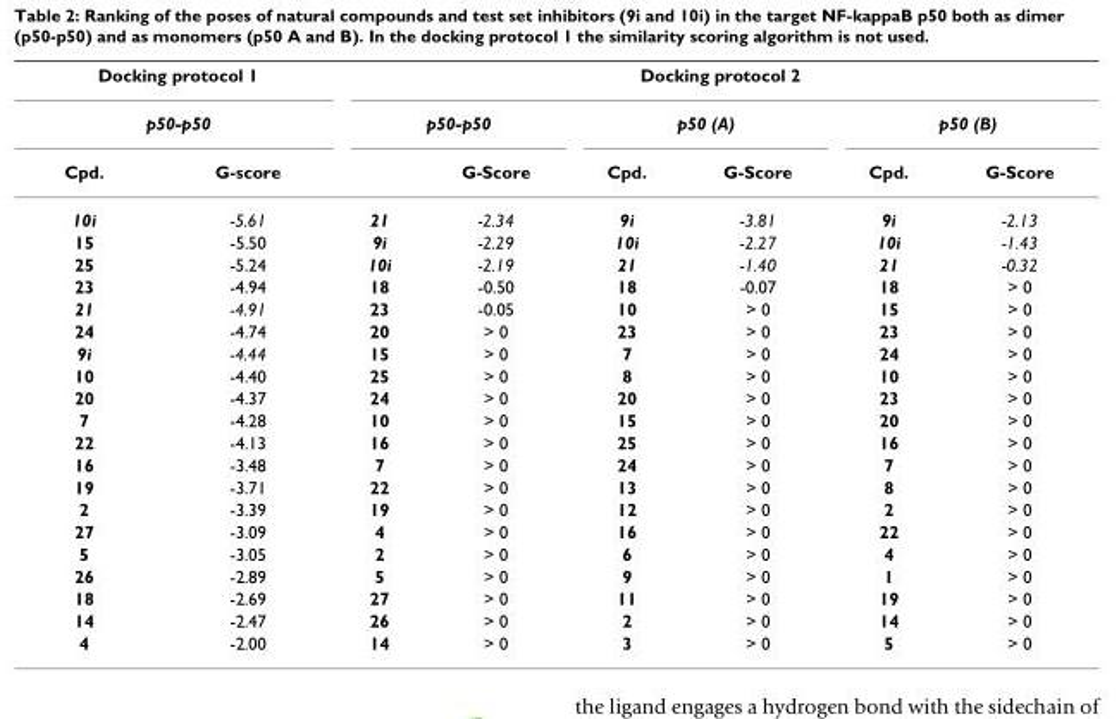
<table><thead><tr><td rowspan="2" colspan="2">Docking protocol 1 p50-p50</td><td colspan="6">Docking protocol 2</td></tr><tr><td colspan="2">p50-p50</td><td colspan="2">p50 (A)</td><td colspan="2">p50 (B)</td></tr><tr><td>Cpd.</td><td>G-score</td><td></td><td>G-Score</td><td>Cpd.</td><td>G-Score</td><td>Cpd.</td><td>G-Score</td></tr></thead><tbody><tr><td>10i</td><td>-5.61</td><td>21</td><td>-2.34</td><td>9i</td><td>-3.81</td><td>9i</td><td>-2.13</td></tr><tr><td>15</td><td>-5.50</td><td>9i</td><td>-2.29</td><td>10i</td><td>-2.27</td><td>10i</td><td>-1.43</td></tr><tr><td>25</td><td>-5.24</td><td>10i</td><td>-2.19</td><td>21</td><td>-1.40</td><td>21</td><td>-0.32</td></tr><tr><td>23</td><td>-4.94</td><td>18</td><td>-0.50</td><td>18</td><td>-0.07</td><td>18</td><td>&gt; 0</td></tr><tr><td>21</td><td>-4.91</td><td>23</td><td>-0.05</td><td>10</td><td>&gt; 0</td><td>15</td><td>&gt; 0</td></tr><tr><td>24</td><td>-4.74</td><td>20</td><td>&gt; 0</td><td>23</td><td>&gt; 0</td><td>23</td><td>&gt; 0</td></tr><tr><td>9i</td><td>-4.44</td><td>15</td><td>&gt; 0</td><td>7</td><td>&gt; 0</td><td>24</td><td>&gt; 0</td></tr><tr><td>10</td><td>-4.40</td><td>25</td><td>&gt; 0</td><td>8</td><td>&gt; 0</td><td>10</td><td>&gt; 0</td></tr><tr><td>20</td><td>-4.37</td><td>24</td><td>&gt; 0</td><td>20</td><td>&gt; 0</td><td>23</td><td>&gt; 0</td></tr><tr><td>7</td><td>-4.28</td><td>10</td><td>&gt; 0</td><td>15</td><td>&gt; 0</td><td>20</td><td>&gt; 0</td></tr><tr><td>22</td><td>-4.13</td><td>16</td><td>&gt; 0</td><td>25</td><td>&gt; 0</td><td>16</td><td>&gt; 0</td></tr><tr><td>16</td><td>-3.48</td><td>7</td><td>&gt; 0</td><td>24</td><td>&gt; 0</td><td>7</td><td>&gt; 0</td></tr><tr><td>19</td><td>-3.71</td><td>22</td><td>&gt; 0</td><td>13</td><td>&gt; 0</td><td>8</td><td>&gt; 0</td></tr><tr><td>2</td><td>-3.39</td><td>19</td><td>&gt; 0</td><td>12</td><td>&gt; 0</td><td>2</td><td>&gt; 0</td></tr><tr><td>27</td><td>-3.09</td><td>4</td><td>&gt; 0</td><td>16</td><td>&gt; 0</td><td>22</td><td>&gt; 0</td></tr><tr><td>5</td><td>-3.05</td><td>2</td><td>&gt; 0</td><td>6</td><td>&gt; 0</td><td>4</td><td>&gt; 0</td></tr><tr><td>26</td><td>-2.89</td><td>5</td><td>&gt; 0</td><td>9</td><td>&gt; 0</td><td>1</td><td>&gt; 0</td></tr><tr><td>18</td><td>-2.69</td><td>27</td><td>&gt; 0</td><td>11</td><td>&gt; 0</td><td>19</td><td>&gt; 0</td></tr><tr><td>14</td><td>-2.47</td><td>26</td><td>&gt; 0</td><td>2</td><td>&gt; 0</td><td>14</td><td>&gt; 0</td></tr><tr><td>4</td><td>-2.00</td><td>14</td><td>&gt; 0</td><td>3</td><td>&gt; 0</td><td>5</td><td>&gt; 0</td></tr></tbody></table>